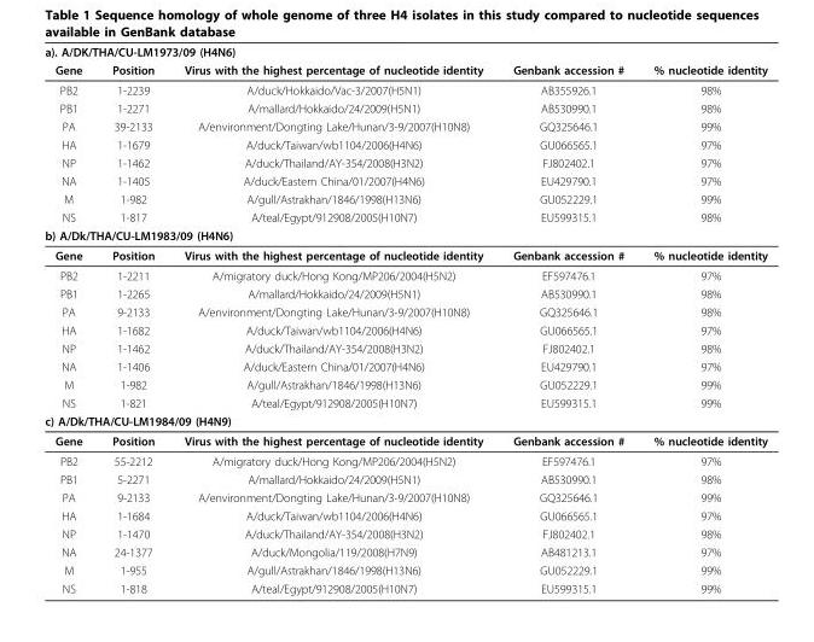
<table><thead><tr><td colspan="5">a). A/DK/THA/CU-LM1973/09 (H4N6)</td></tr><tr><td>Gene</td><td>Position</td><td>Virus with the highest percentage of nucleotide identity</td><td>Genbank accession #</td><td>% nucleotide identity</td></tr></thead><tbody><tr><td>PB2</td><td>1-2239</td><td>A/duck/Hokkaido/Vac-3/2007(H5N1)</td><td>AB355926.1</td><td>98%</td></tr><tr><td>PB1</td><td>1-2271</td><td>A/mallard/Hokkaido/24/2009(H5N1)</td><td>AB530990.1</td><td>98%</td></tr><tr><td>PA</td><td>39-2133</td><td>A/environment/Dongting Lake/Hunan/3-9/2007(H10N8)</td><td>GQ325646.1</td><td>99%</td></tr><tr><td>HA</td><td>1-1679</td><td>A/duck/Taiwan/wb1104/2006(H4N6)</td><td>GU066565.1</td><td>97%</td></tr><tr><td>NP</td><td>1-1462</td><td>A/duck/Thailand/AY-354/2008(H3N2)</td><td>FJ802402.1</td><td>97%</td></tr><tr><td>NA</td><td>1-1405</td><td>A/duck/Eastern China/01/2007(H4N6)</td><td>EU429790.1</td><td>97%</td></tr><tr><td>M</td><td>1-982</td><td>A/gull/Astrakhan/1846/1998(H13N6)</td><td>GU052229.1</td><td>99%</td></tr><tr><td>NS</td><td>1-817</td><td>A/teal/Egypt/912908/2005(H10N7)</td><td>EU599315.1</td><td>98%</td></tr><tr><td colspan="5">b) A/Dk/THA/CU-LM1983/09 (H4N6)</td></tr><tr><td>Gene</td><td>Position</td><td>Virus with the highest percentage of nucleotide identity</td><td>Genbank accession #</td><td>% nucleotide identity</td></tr><tr><td>PB2</td><td>1-2211</td><td>A/migratory duck/Hong Kong/MP206/2004(H5N2)</td><td>EF597476.1</td><td>97%</td></tr><tr><td>PB1</td><td>1-2265</td><td>A/mallard/Hokkaido/24/2009(H5N1)</td><td>AB530990.1</td><td>98%</td></tr><tr><td>PA</td><td>9-2133</td><td>A/environment/Dongting Lake/Hunan/3-9/2007(H10N8)</td><td>GQ325646.1</td><td>98%</td></tr><tr><td>HA</td><td>1-1682</td><td>A/duck/Taiwan/wb1104/2006(H4N6)</td><td>GU066565.1</td><td>97%</td></tr><tr><td>NP</td><td>1-1462</td><td>A/duck/Thailand/AY-354/2008(H3N2)</td><td>FJ802402.1</td><td>98%</td></tr><tr><td>NA</td><td>1-1406</td><td>A/duck/Eastern China/01/2007(H4N6)</td><td>EU429790.1</td><td>97%</td></tr><tr><td>M</td><td>1-982</td><td>A/gull/Astrakhan/1846/1998(H13N6)</td><td>GU052229.1</td><td>99%</td></tr><tr><td>NS</td><td>1-821</td><td>A/teal/Egypt/912908/2005(H10N7)</td><td>EU599315.1</td><td>99%</td></tr><tr><td colspan="5">c) A/Dk/THA/CU-LM1984/09 (H4N9)</td></tr><tr><td>Gene</td><td>Position</td><td>Virus with the highest percentage of nucleotide identity</td><td>Genbank accession #</td><td>% nucleotide identity</td></tr><tr><td>PB2</td><td>55-2212</td><td>A/migratory duck/Hong Kong/MP206/2004(H5N2)</td><td>EF597476.1</td><td>97%</td></tr><tr><td>PB1</td><td>5-2271</td><td>A/mallard/Hokkaido/24/2009(H5N1)</td><td>AB530990.1</td><td>98%</td></tr><tr><td>PA</td><td>9-2133</td><td>A/environment/Dongting Lake/Hunan/3-9/2007(H10N8)</td><td>GQ325646.1</td><td>99%</td></tr><tr><td>HA</td><td>1-1684</td><td>A/duck/Taiwan/wb1104/2006(H4N6)</td><td>GU066565.1</td><td>97%</td></tr><tr><td>NP</td><td>1-1470</td><td>A/duck/Thailand/AY-354/2008(H3N2)</td><td>FJ802402.1</td><td>98%</td></tr><tr><td>NA</td><td>24-1377</td><td>A/duck/Mongolia/119/2008(H7N9)</td><td>AB481213.1</td><td>97%</td></tr><tr><td>M</td><td>1-955</td><td>A/gull/Astrakhan/1846/1998(H13N6)</td><td>GU052229.1</td><td>99%</td></tr><tr><td>NS</td><td>1-818</td><td>A/teal/Egypt/912908/2005(H10N7)</td><td>EU599315.1</td><td>99%</td></tr></tbody></table>